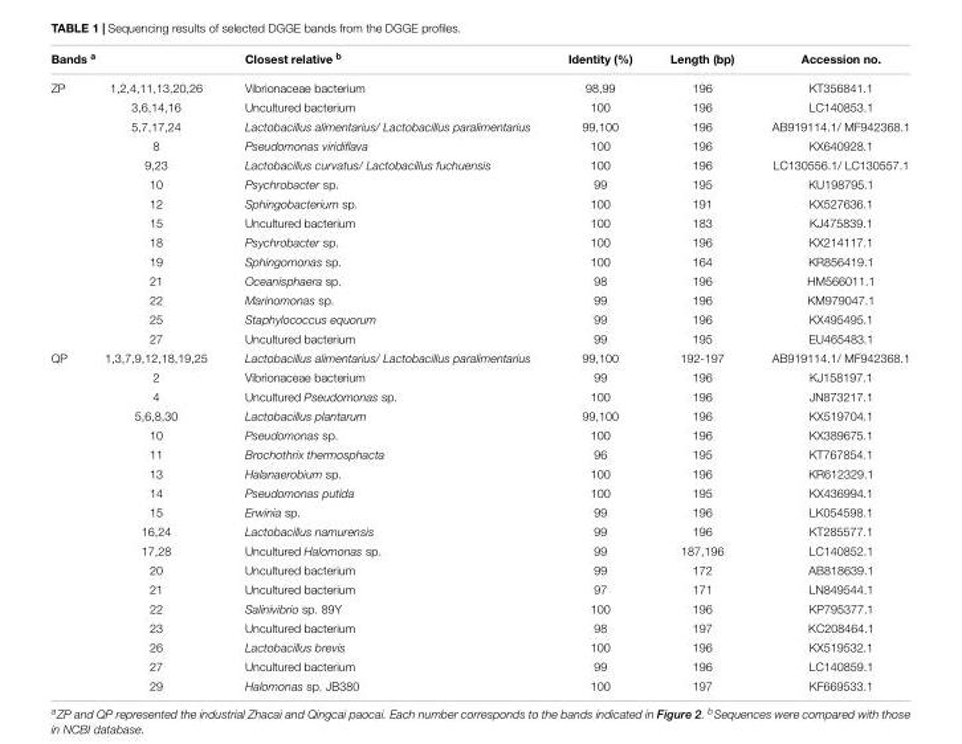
<table><thead><tr><td colspan="2">Bands <sup>a</sup></td><td rowspan="2">Closest relative <sup>b</sup> Vibrionaceae bacterium</td><td rowspan="2">Identity (%) 98,99</td><td rowspan="2">Length (bp) 196</td><td rowspan="2">Accession no. KT356841.1</td></tr><tr><td>ZP</td><td>1,2,4,11,13,20,26</td></tr></thead><tbody><tr><td></td><td>3,6,14,16</td><td>Uncultured bacterium</td><td>100</td><td>196</td><td>LC140853.1</td></tr><tr><td></td><td>5,7,17,24</td><td>Lactobacillus alimentarius/ Lactobacillus paralimentarius</td><td>99,100</td><td>196</td><td>AB919114.1/ MF942368.1</td></tr><tr><td></td><td>8</td><td>Pseudomonas viridiflava</td><td>100</td><td>196</td><td>KX640928.1</td></tr><tr><td></td><td>9,23</td><td>Lactobacillus curvatus/ Lactobacillus fuchuensis</td><td>100</td><td>196</td><td>LC130556.1/ LC130557.1</td></tr><tr><td></td><td>10</td><td>Psychrobacter sp.</td><td>99</td><td>195</td><td>KU198795.1</td></tr><tr><td></td><td>12</td><td>Sphingobacterium sp.</td><td>100</td><td>191</td><td>KX527636.1</td></tr><tr><td></td><td>15</td><td>Uncultured bacterium</td><td>100</td><td>183</td><td>KJ475839.1</td></tr><tr><td></td><td>18</td><td>Psychrobacter sp.</td><td>100</td><td>196</td><td>KX214117.1</td></tr><tr><td></td><td>19</td><td>Sphingomonas sp.</td><td>100</td><td>164</td><td>KR856419.1</td></tr><tr><td></td><td>21</td><td>Oceanisphaera sp.</td><td>98</td><td>196</td><td>HM566011.1</td></tr><tr><td></td><td>22</td><td>Marinomonas sp.</td><td>99</td><td>196</td><td>KM979047.1</td></tr><tr><td></td><td>25</td><td>Staphylococcus equorum</td><td>99</td><td>196</td><td>KX495495.1</td></tr><tr><td></td><td>27</td><td>Uncultured bacterium</td><td>99</td><td>195</td><td>EU465483.1</td></tr><tr><td rowspan="18">QP</td><td>1,3,7,9,12,18,19,25</td><td>Lactobacillus alimentarius/ Lactobacillus paralimentarius</td><td>99,100</td><td>192-197</td><td>AB919114.1/ MF942368.1</td></tr><tr><td>2</td><td>Vibrionaceae bacterium</td><td>99</td><td>196</td><td>KJ158197.1</td></tr><tr><td>4</td><td>Uncultured Pseudomonas sp.</td><td>100</td><td>196</td><td>JN873217.1</td></tr><tr><td>5,6,8,30</td><td>Lactobacillus plantarum</td><td>99,100</td><td>196</td><td>KX519704.1</td></tr><tr><td>10</td><td>Pseudomonas sp.</td><td>100</td><td>196</td><td>KX389675.1</td></tr><tr><td>11</td><td>Brochothrix thermosphacta</td><td>96</td><td>195</td><td>KT767854.1</td></tr><tr><td>13</td><td>Halanaerobium sp.</td><td>100</td><td>196</td><td>KR612329.1</td></tr><tr><td>14</td><td>Pseudomonas putida</td><td>100</td><td>195</td><td>KX436994.1</td></tr><tr><td>15</td><td>Erwinia sp.</td><td>99</td><td>196</td><td>LK054598.1</td></tr><tr><td>16,24</td><td>Lactobacillus namurensis</td><td>99</td><td>196</td><td>KT285577.1</td></tr><tr><td>17,28</td><td>Uncultured Halomonas sp.</td><td>99</td><td>187,196</td><td>LC140852.1</td></tr><tr><td>20</td><td>Uncultured bacterium</td><td>99</td><td>172</td><td>AB818639.1</td></tr><tr><td>21</td><td>Uncultured bacterium</td><td>97</td><td>171</td><td>LN849544.1</td></tr><tr><td>22</td><td>Salinivibrio sp. 89Y</td><td>100</td><td>196</td><td>KP795377.1</td></tr><tr><td>23</td><td>Uncultured bacterium</td><td>98</td><td>197</td><td>KC208464.1</td></tr><tr><td>26</td><td>Lactobacillus brevis</td><td>100</td><td>196</td><td>KX519532.1</td></tr><tr><td>27</td><td>Uncultured bacterium</td><td>99</td><td>196</td><td>LC140859.1</td></tr><tr><td>29</td><td>Halomonas sp. JB380</td><td>100</td><td>197</td><td>KF669533.1</td></tr></tbody></table>